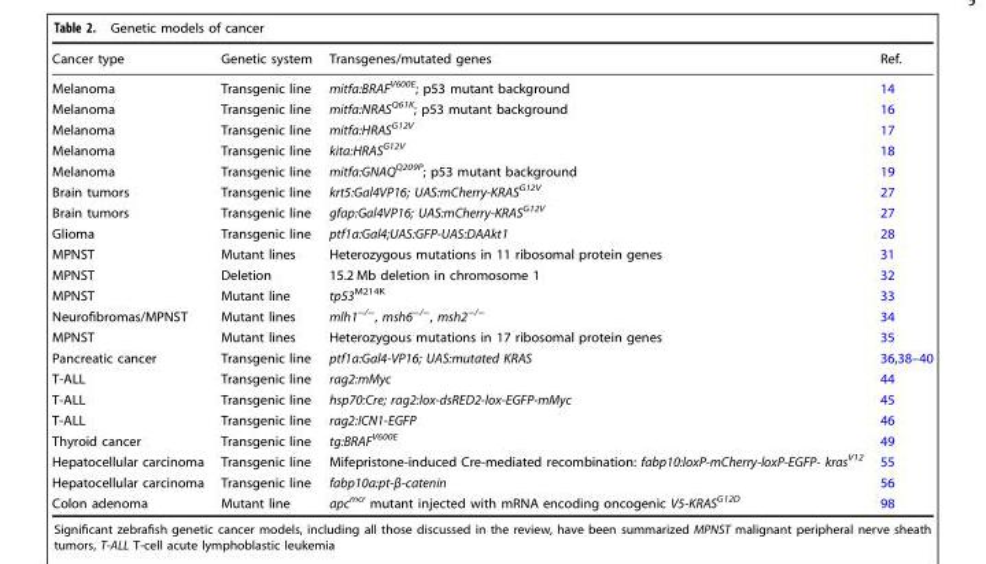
<table><thead><tr><td>Cancer type</td><td>Genetic system</td><td>Transgenes/mutated genes</td><td>Ref.</td></tr></thead><tbody><tr><td>Melanoma</td><td>Transgenic line</td><td>mitfa:BRAF<sup>V600E</sup>; p53 mutant background</td><td>14</td></tr><tr><td>Melanoma</td><td>Transgenic line</td><td>mitfa:NRAS<sup>Q61K</sup>; p53 mutant background</td><td>16</td></tr><tr><td>Melanoma</td><td>Transgenic line</td><td>mitfa:HRAS<sup>G12V</sup></td><td>17</td></tr><tr><td>Melanoma</td><td>Transgenic line</td><td>kita:HRAS<sup>G12V</sup></td><td>18</td></tr><tr><td>Melanoma</td><td>Transgenic line</td><td>mitfa:GNAQ<sup>Q209P</sup>; p53 mutant background</td><td>19</td></tr><tr><td>Brain tumors</td><td>Transgenic line</td><td>krt5:Gal4VP16; UAS:mCherry-KRAS<sup>G12V</sup></td><td>27</td></tr><tr><td>Brain tumors</td><td>Transgenic line</td><td>gfap:Gal4VP16; UAS:mCherry-KRAS<sup>G12V</sup></td><td>27</td></tr><tr><td>Glioma</td><td>Transgenic line</td><td>ptf1a:Gal4;UAS:GFP-UAS:DAAkt1</td><td>28</td></tr><tr><td>MPNST</td><td>Mutant lines</td><td>Heterozygous mutations in 11 ribosomal protein genes</td><td>31</td></tr><tr><td>MPNST</td><td>Deletion</td><td>15.2 Mb deletion in chromosome 1</td><td>32</td></tr><tr><td>MPNST</td><td>Mutant line</td><td>tp53<sup>M214K</sup></td><td>33</td></tr><tr><td>Neurofibromas/MPNST</td><td>Mutant lines</td><td>mlh1<sup>−/−</sup>, msh6<sup>−/−</sup>, msh2<sup>−/−</sup></td><td>34</td></tr><tr><td>MPNST</td><td>Mutant lines</td><td>Heterozygous mutations in 17 ribosomal protein genes</td><td>35</td></tr><tr><td>Pancreatic cancer</td><td>Transgenic line</td><td>ptf1a:Gal4-VP16; UAS:mutated KRAS</td><td>36,38–40</td></tr><tr><td>T-ALL</td><td>Transgenic line</td><td>rag2:mMyc</td><td>44</td></tr><tr><td>T-ALL</td><td>Transgenic line</td><td>hsp70:Cre; rag2:lox-dsRED2-lox-EGFP-mMyc</td><td>45</td></tr><tr><td>T-ALL</td><td>Transgenic line</td><td>rag2:ICN1-EGFP</td><td>46</td></tr><tr><td>Thyroid cancer</td><td>Transgenic line</td><td>tg:BRAF<sup>V600E</sup></td><td>49</td></tr><tr><td>Hepatocellular carcinoma</td><td>Transgenic line</td><td>Mifepristone-induced Cre-mediated recombination: fabp10:loxP-mCherry-loxP-EGFP- kras<sup>V12</sup></td><td>55</td></tr><tr><td>Hepatocellular carcinoma</td><td>Transgenic line</td><td>fabp10a:pt-β-catenin</td><td>56</td></tr><tr><td>Colon adenoma</td><td>Mutant line</td><td>apc<sup>mcr</sup> mutant injected with mRNA encoding oncogenic V5-KRAS<sup>G12D</sup></td><td>98</td></tr></tbody></table>